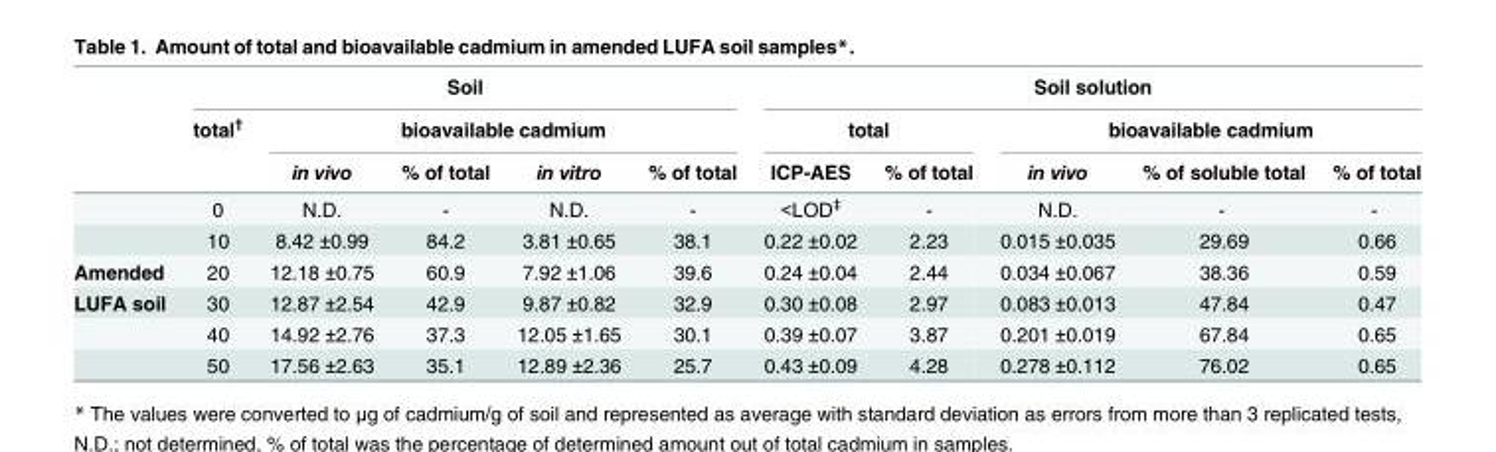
<table><thead><tr><td rowspan="3"></td><td colspan="5">Soil</td><td colspan="5">Soil solution</td></tr><tr><td rowspan="2">total<sup>†</sup></td><td colspan="4">bioavailable cadmium</td><td colspan="2">total</td><td colspan="3">bioavailable cadmium</td></tr><tr><td>in vivo</td><td>% of total</td><td>in vitro</td><td>% of total</td><td>ICP-AES</td><td>% of total</td><td>in vivo</td><td>% of soluble total</td><td>% of total</td></tr></thead><tbody><tr><td></td><td>0</td><td>N.D.</td><td>-</td><td>N.D.</td><td>-</td><td>&lt;LOD<sup>‡</sup></td><td>-</td><td>N.D.</td><td>-</td><td>-</td></tr><tr><td></td><td>10</td><td>8.42 ±0.99</td><td>84.2</td><td>3.81 ±0.65</td><td>38.1</td><td>0.22 ±0.02</td><td>2.23</td><td>0.015 ±0.035</td><td>29.69</td><td>0.66</td></tr><tr><td>Amended</td><td>20</td><td>12.18 ±0.75</td><td>60.9</td><td>7.92 ±1.06</td><td>39.6</td><td>0.24 ±0.04</td><td>2.44</td><td>0.034 ±0.067</td><td>38.36</td><td>0.59</td></tr><tr><td rowspan="3">LUFA soil</td><td>30</td><td>12.87 ±2.54</td><td>42.9</td><td>9.87 ±0.82</td><td>32.9</td><td>0.30 ±0.08</td><td>2.97</td><td>0.083 ±0.013</td><td>47.84</td><td>0.47</td></tr><tr><td>40</td><td>14.92 ±2.76</td><td>37.3</td><td>12.05 ±1.65</td><td>30.1</td><td>0.39 ±0.07</td><td>3.87</td><td>0.201 ±0.019</td><td>67.84</td><td>0.65</td></tr><tr><td>50</td><td>17.56 ±2.63</td><td>35.1</td><td>12.89 ±2.36</td><td>25.7</td><td>0.43 ±0.09</td><td>4.28</td><td>0.278 ±0.112</td><td>76.02</td><td>0.65</td></tr></tbody></table>